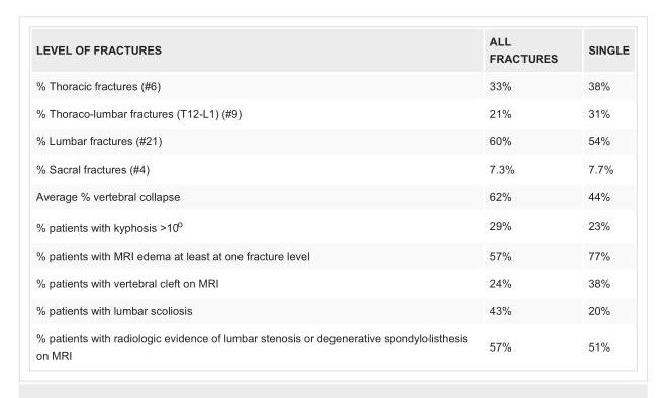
<table><tbody><tr><td>LEVEL OF FRACTURES</td><td>ALL FRACTURES</td><td>SINGLE</td></tr><tr><td>% Thoracic fractures (#6)</td><td>33%</td><td>38%</td></tr><tr><td>% Thoraco-lumbar fractures (T12-L1) (#9)</td><td>21%</td><td>31%</td></tr><tr><td>% Lumbar fractures (#21)</td><td>60%</td><td>54%</td></tr><tr><td>% Sacral fractures (#4)</td><td>7.3%</td><td>7.7%</td></tr><tr><td>Average % vertebral collapse</td><td>62%</td><td>44%</td></tr><tr><td>% patients with kyphosis &gt;10<sup>o</sup></td><td>29%</td><td>23%</td></tr><tr><td>% patients with MRI edema at least at one fracture level</td><td>57%</td><td>77%</td></tr><tr><td>% patients with vertebral cleft on MRI</td><td>24%</td><td>38%</td></tr><tr><td>% patients with lumbar scoliosis</td><td>43%</td><td>20%</td></tr><tr><td>% patients with radiologic evidence of lumbar stenosis or degenerative spondylolisthesis on MRI</td><td>57%</td><td>51%</td></tr></tbody></table>